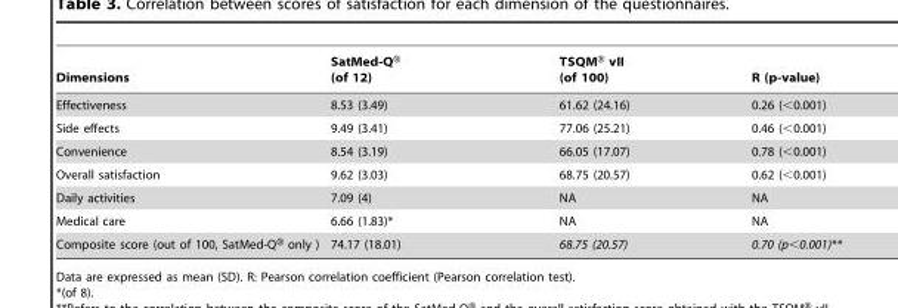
<table><thead><tr><td>Dimensions</td><td>SatMed-Q® (of 12)</td><td>TSQM® vII (of 100)</td><td>R (p-value)</td></tr></thead><tbody><tr><td>Effectiveness</td><td>8.53 (3.49)</td><td>61.62 (24.16)</td><td>0.26 (&lt;0.001)</td></tr><tr><td>Side effects</td><td>9.49 (3.41)</td><td>77.06 (25.21)</td><td>0.46 (&lt;0.001)</td></tr><tr><td>Convenience</td><td>8.54 (3.19)</td><td>66.05 (17.07)</td><td>0.78 (&lt;0.001)</td></tr><tr><td>Overall satisfaction</td><td>9.62 (3.03)</td><td>68.75 (20.57)</td><td>0.62 (&lt;0.001)</td></tr><tr><td>Daily activities</td><td>7.09 (4)</td><td>NA</td><td>NA</td></tr><tr><td>Medical care</td><td>6.66 (1.83)*</td><td>NA</td><td>NA</td></tr><tr><td>Composite score (out of 100, SatMed-Q® only )</td><td>74.17 (18.01)</td><td>68.75 (20.57)</td><td>0.70 (p&lt;0.001)**</td></tr></tbody></table>